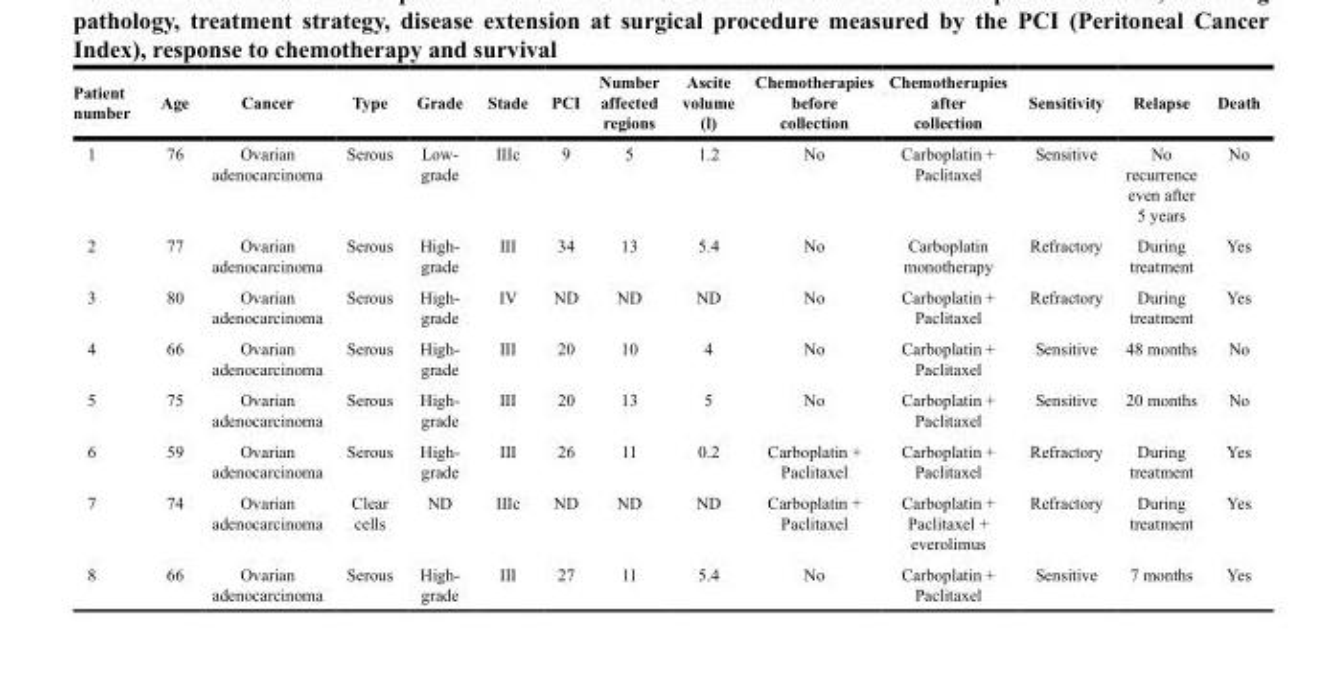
<table><thead><tr><td>Patient number</td><td>Age</td><td>Cancer</td><td>Type</td><td>Grade</td><td>Stade</td><td>PCI</td><td>Number affected regions</td><td>Ascite volume (l)</td><td>Chemotherapies before collection</td><td>Chemotherapies after collection</td><td>Sensitivity</td><td>Relapse</td><td>Death</td></tr></thead><tbody><tr><td>1</td><td>76</td><td>Ovarian adenocarcinoma</td><td>Serous</td><td>Low- grade</td><td>IIIc</td><td>9</td><td>5</td><td>1.2</td><td>No</td><td>Carboplatin + Paclitaxel</td><td>Sensitive</td><td>No recurrence even after 5 years</td><td>No</td></tr><tr><td>2</td><td>77</td><td>Ovarian adenocarcinoma</td><td>Serous</td><td>High- grade</td><td>III</td><td>34</td><td>13</td><td>5.4</td><td>No</td><td>Carboplatin monotherapy</td><td>Refractory</td><td>During treatment</td><td>Yes</td></tr><tr><td>3</td><td>80</td><td>Ovarian adenocarcinoma</td><td>Serous</td><td>High- grade</td><td>IV</td><td>ND</td><td>ND</td><td>ND</td><td>No</td><td>Carboplatin + Paclitaxel</td><td>Refractory</td><td>During treatment</td><td>Yes</td></tr><tr><td>4</td><td>66</td><td>Ovarian adenocarcinoma</td><td>Serous</td><td>High- grade</td><td>III</td><td>20</td><td>10</td><td>4</td><td>No</td><td>Carboplatin + Paclitaxel</td><td>Sensitive</td><td>48 months</td><td>No</td></tr><tr><td>5</td><td>75</td><td>Ovarian adenocarcinoma</td><td>Serous</td><td>High- grade</td><td>III</td><td>20</td><td>13</td><td>5</td><td>No</td><td>Carboplatin + Paclitaxel</td><td>Sensitive</td><td>20 months</td><td>No</td></tr><tr><td>6</td><td>59</td><td>Ovarian adenocarcinoma</td><td>Serous</td><td>High- grade</td><td>III</td><td>26</td><td>11</td><td>0.2</td><td>Carboplatin + Paclitaxel</td><td>Carboplatin + Paclitaxel</td><td>Refractory</td><td>During treatment</td><td>Yes</td></tr><tr><td>7</td><td>74</td><td>Ovarian adenocarcinoma</td><td>Clear cells</td><td>ND</td><td>IIIc</td><td>ND</td><td>ND</td><td>ND</td><td>Carboplatin + Paclitaxel</td><td>Carboplatin + Paclitaxel + everolimus</td><td>Refractory</td><td>During treatment</td><td>Yes</td></tr><tr><td>8</td><td>66</td><td>Ovarian adenocarcinoma</td><td>Serous</td><td>High- grade</td><td>III</td><td>27</td><td>11</td><td>5.4</td><td>No</td><td>Carboplatin + Paclitaxel</td><td>Sensitive</td><td>7 months</td><td>Yes</td></tr></tbody></table>